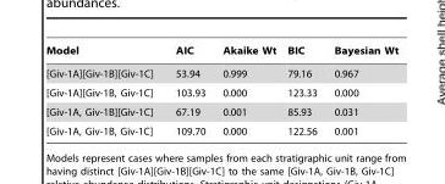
<table><thead><tr><td>Model</td><td>AIC</td><td>Akaike Wt</td><td>BIC</td><td>Bayesian Wt</td></tr></thead><tbody><tr><td>[Giv-1A][Giv-1B][Giv-1C]</td><td>53.94</td><td>0.999</td><td>79.16</td><td>0.967</td></tr><tr><td>[Giv-1A][Giv-1B, Giv-1C]</td><td>103.93</td><td>0.000</td><td>123.33</td><td>0.000</td></tr><tr><td>[Giv-1A, Giv-1B][Giv-1C]</td><td>67.19</td><td>0.001</td><td>85.93</td><td>0.031</td></tr><tr><td>[Giv-1A, Giv-1B, Giv-1C]</td><td>109.70</td><td>0.000</td><td>122.56</td><td>0.001</td></tr></tbody></table>